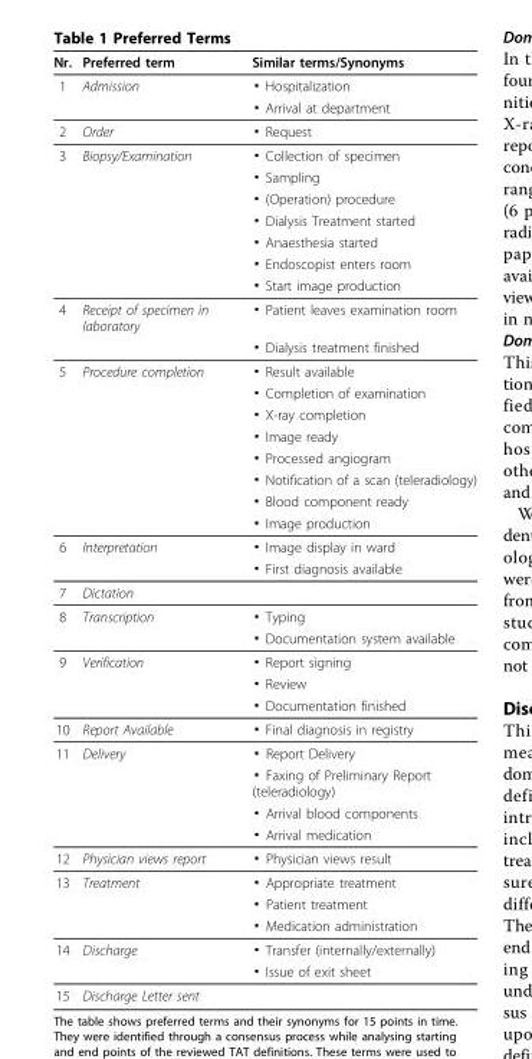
<table><thead><tr><td>Nr.</td><td>Preferred term</td><td>Similar terms/Synonyms</td></tr></thead><tbody><tr><td rowspan="2">1</td><td>Admission</td><td>▪ Hospitalization</td></tr><tr><td></td><td>▪ Arrival at department</td></tr><tr><td>2</td><td>Order</td><td>▪ Request</td></tr><tr><td rowspan="7">3</td><td>Biopsy/Examination</td><td>▪ Collection of specimen</td></tr><tr><td></td><td>▪ Sampling</td></tr><tr><td></td><td>▪ (Operation) procedure</td></tr><tr><td></td><td>▪ Dialysis Treatment started</td></tr><tr><td></td><td>▪ Anaesthesia started</td></tr><tr><td></td><td>▪ Endoscopist enters room</td></tr><tr><td></td><td>▪ Start image production</td></tr><tr><td rowspan="2">4</td><td>Receipt of specimen in laboratory</td><td>▪ Patient leaves examination room</td></tr><tr><td></td><td>▪ Dialysis treatment finished</td></tr><tr><td rowspan="8">5</td><td>Procedure completion</td><td>▪ Result available</td></tr><tr><td></td><td>▪ Completion of examination</td></tr><tr><td></td><td>▪ X-ray completion</td></tr><tr><td></td><td>▪ Image ready</td></tr><tr><td></td><td>▪ Processed angiogram</td></tr><tr><td></td><td>▪ Notification of a scan (teleradiology)</td></tr><tr><td></td><td>▪ Blood component ready</td></tr><tr><td></td><td>▪ Image production</td></tr><tr><td rowspan="2">6</td><td>Interpretation</td><td>▪ Image display in ward</td></tr><tr><td></td><td>▪ First diagnosis available</td></tr><tr><td>7</td><td>Dictation</td><td></td></tr><tr><td rowspan="2">8</td><td>Transcription</td><td>▪ Typing</td></tr><tr><td></td><td>▪ Documentation system available</td></tr><tr><td rowspan="3">9</td><td>Verification</td><td>▪ Report signing</td></tr><tr><td></td><td>▪ Review</td></tr><tr><td></td><td>▪ Documentation finished</td></tr><tr><td>10</td><td>Report Available</td><td>▪ Final diagnosis in registry</td></tr><tr><td rowspan="4">11</td><td>Delivery</td><td>▪ Report Delivery</td></tr><tr><td></td><td>▪ Faxing of Preliminary Report (teleradiology)</td></tr><tr><td></td><td>▪ Arrival blood components</td></tr><tr><td></td><td>▪ Arrival medication</td></tr><tr><td>12</td><td>Physician views report</td><td>▪ Physician views result</td></tr><tr><td rowspan="3">13</td><td>Treatment</td><td>▪ Appropriate treatment</td></tr><tr><td></td><td>▪ Patient treatment</td></tr><tr><td></td><td>▪ Medication administration</td></tr><tr><td rowspan="2">14</td><td>Discharge</td><td>▪ Transfer (internally/externally)</td></tr><tr><td></td><td>▪ Issue of exit sheet</td></tr><tr><td>15</td><td>Discharge Letter sent</td><td></td></tr></tbody></table>